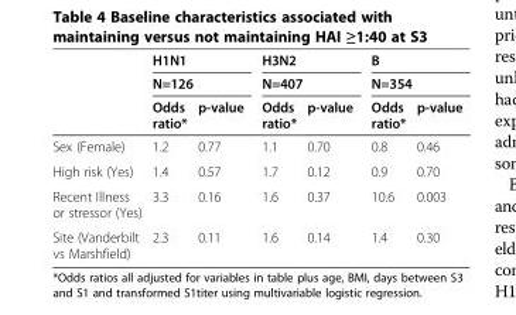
<table><thead><tr><td rowspan="3"></td><td rowspan="2" colspan="2">H1N1 N=126</td><td rowspan="2" colspan="2">H3N2 N=407</td><td rowspan="2" colspan="2">B N=354</td></tr><tr></tr><tr><td>Odds ratio*</td><td>p-value</td><td>Odds ratio*</td><td>p-value</td><td>Odds ratio*</td><td>p-value</td></tr></thead><tbody><tr><td>Sex (Female)</td><td>1.2</td><td>0.77</td><td>1.1</td><td>0.70</td><td>0.8</td><td>0.46</td></tr><tr><td>High risk (Yes)</td><td>1.4</td><td>0.57</td><td>1.7</td><td>0.12</td><td>0.9</td><td>0.70</td></tr><tr><td>Recent Illness or stressor (Yes)</td><td>3.3</td><td>0.16</td><td>1.6</td><td>0.37</td><td>10.6</td><td>0.003</td></tr><tr><td>Site (Vanderbilt vs Marshfield)</td><td>2.3</td><td>0.11</td><td>1.6</td><td>0.14</td><td>1.4</td><td>0.30</td></tr></tbody></table>